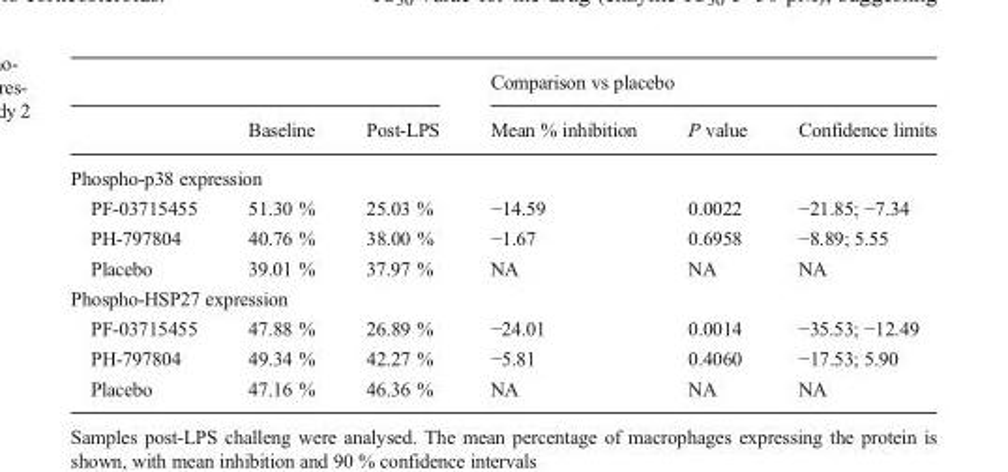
<table><thead><tr><td rowspan="2"></td><td rowspan="2">Baseline</td><td rowspan="2">Post-LPS</td><td colspan="3">Comparison vs placebo</td></tr><tr><td>Mean % inhibition</td><td>P value</td><td>Confidence limits</td></tr></thead><tbody><tr><td colspan="6">Phospho-p38 expression</td></tr><tr><td>PF-03715455</td><td>51.30 %</td><td>25.03 %</td><td>−14.59</td><td>0.0022</td><td>−21.85; −7.34</td></tr><tr><td>PH-797804</td><td>40.76 %</td><td>38.00 %</td><td>−1.67</td><td>0.6958</td><td>−8.89; 5.55</td></tr><tr><td>Placebo</td><td>39.01 %</td><td>37.97 %</td><td>NA</td><td>NA</td><td>NA</td></tr><tr><td colspan="6">Phospho-HSP27 expression</td></tr><tr><td>PF-03715455</td><td>47.88 %</td><td>26.89 %</td><td>−24.01</td><td>0.0014</td><td>−35.53; −12.49</td></tr><tr><td>PH-797804</td><td>49.34 %</td><td>42.27 %</td><td>−5.81</td><td>0.4060</td><td>−17.53; 5.90</td></tr><tr><td>Placebo</td><td>47.16 %</td><td>46.36 %</td><td>NA</td><td>NA</td><td>NA</td></tr></tbody></table>